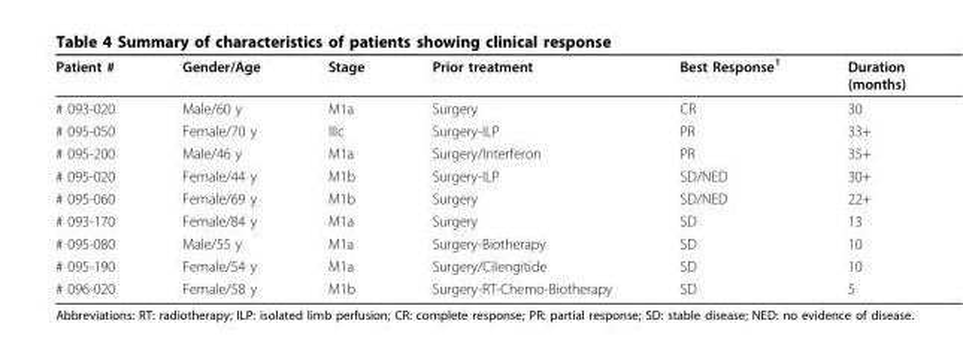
<table><thead><tr><td>Patient #</td><td>Gender/Age</td><td>Stage</td><td>Prior treatment</td><td>Best Response<sup>1</sup></td><td>Duration (months)</td></tr></thead><tbody><tr><td># 093-020</td><td>Male/60 y</td><td>M1a</td><td>Surgery</td><td>CR</td><td>30</td></tr><tr><td># 095-050</td><td>Female/70 y</td><td>IIIc</td><td>Surgery-ILP</td><td>PR</td><td>33+</td></tr><tr><td># 095-200</td><td>Male/46 y</td><td>M1a</td><td>Surgery/Interferon</td><td>PR</td><td>35+</td></tr><tr><td># 095-020</td><td>Female/44 y</td><td>M1b</td><td>Surgery-ILP</td><td>SD/NED</td><td>30+</td></tr><tr><td># 095-060</td><td>Female/69 y</td><td>M1b</td><td>Surgery</td><td>SD/NED</td><td>22+</td></tr><tr><td># 093-170</td><td>Female/84 y</td><td>M1a</td><td>Surgery</td><td>SD</td><td>13</td></tr><tr><td># 095-080</td><td>Male/55 y</td><td>M1a</td><td>Surgery-Biotherapy</td><td>SD</td><td>10</td></tr><tr><td># 095-190</td><td>Female/54 y</td><td>M1a</td><td>Surgery/Cilengitide</td><td>SD</td><td>10</td></tr><tr><td># 096-020</td><td>Female/58 y</td><td>M1b</td><td>Surgery-RT-Chemo-Biotherapy</td><td>SD</td><td>5</td></tr></tbody></table>